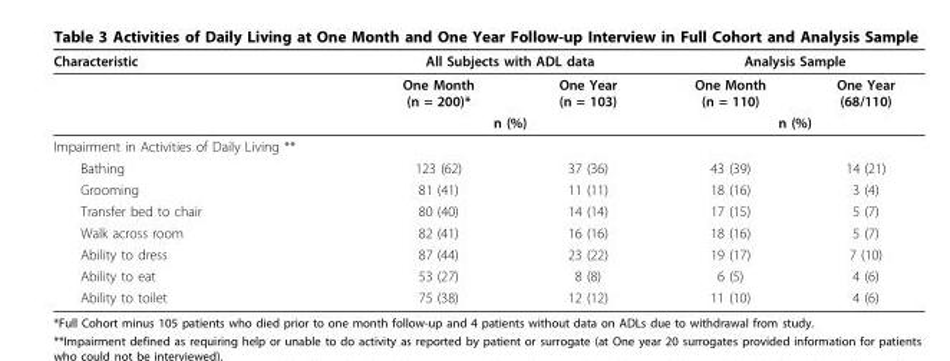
<table><thead><tr><td rowspan="2">Characteristic</td><td colspan="2">All Subjects with ADL data</td><td colspan="2">Analysis Sample</td></tr><tr><td>One Month (n = 200)*</td><td>One Year (n = 103)</td><td>One Month (n = 110)</td><td>One Year (68/110)</td></tr></thead><tbody><tr><td></td><td colspan="2">n (%)</td><td colspan="2">n (%)</td></tr><tr><td colspan="5">Impairment in Activities of Daily Living **</td></tr><tr><td>Bathing</td><td>123 (62)</td><td>37 (36)</td><td>43 (39)</td><td>14 (21)</td></tr><tr><td>Grooming</td><td>81 (41)</td><td>11 (11)</td><td>18 (16)</td><td>3 (4)</td></tr><tr><td>Transfer bed to chair</td><td>80 (40)</td><td>14 (14)</td><td>17 (15)</td><td>5 (7)</td></tr><tr><td>Walk across room</td><td>82 (41)</td><td>16 (16)</td><td>18 (16)</td><td>5 (7)</td></tr><tr><td>Ability to dress</td><td>87 (44)</td><td>23 (22)</td><td>19 (17)</td><td>7 (10)</td></tr><tr><td>Ability to eat</td><td>53 (27)</td><td>8 (8)</td><td>6 (5)</td><td>4 (6)</td></tr><tr><td>Ability to toilet</td><td>75 (38)</td><td>12 (12)</td><td>11 (10)</td><td>4 (6)</td></tr></tbody></table>